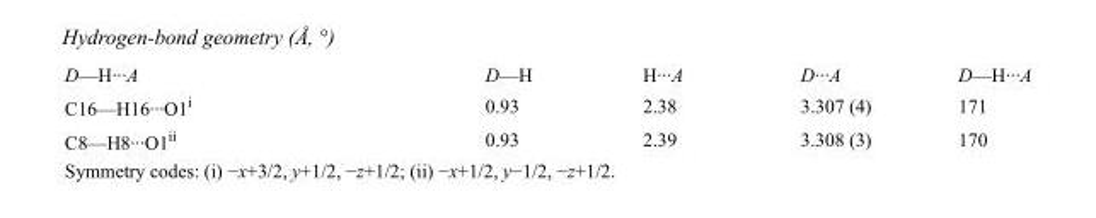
<table><tbody><tr><td>D—H···A</td><td>D—H</td><td>H···A</td><td>D···A</td><td>D—H···A</td></tr><tr><td>C16—H16···O1<sup>i</sup></td><td>0.93</td><td>2.38</td><td>3.307 (4)</td><td>171</td></tr><tr><td>C8—H8···O1<sup>ii</sup></td><td>0.93</td><td>2.39</td><td>3.308 (3)</td><td>170</td></tr></tbody></table>